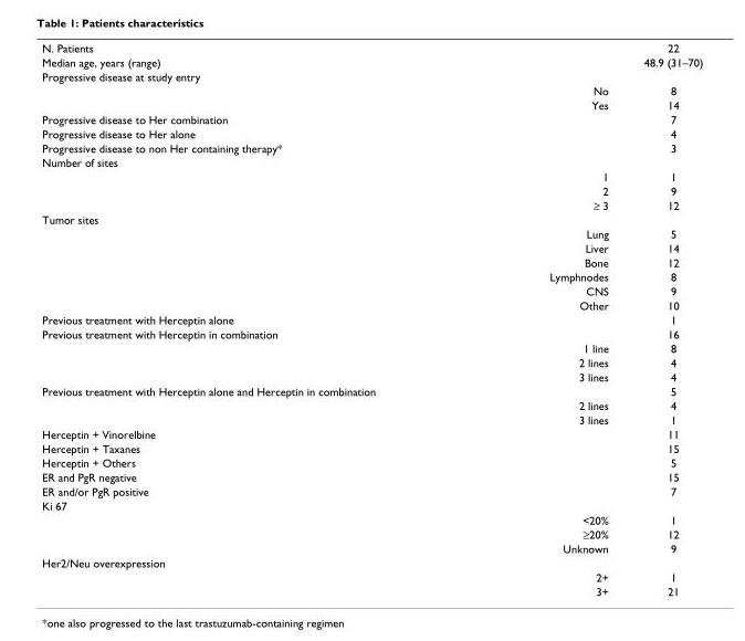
<table><tbody><tr><td>N. Patients</td><td>22</td></tr><tr><td>Median age, years (range)</td><td>48.9 (31–70)</td></tr><tr><td colspan="2">Progressive disease at study entry</td></tr><tr><td>No</td><td>8</td></tr><tr><td>Yes</td><td>14</td></tr><tr><td>Progressive disease to Her combination</td><td>7</td></tr><tr><td>Progressive disease to Her alone</td><td>4</td></tr><tr><td>Progressive disease to non Her containing therapy*</td><td>3</td></tr><tr><td colspan="2">Number of sites</td></tr><tr><td>1</td><td>1</td></tr><tr><td>2</td><td>9</td></tr><tr><td>≥ 3</td><td>12</td></tr><tr><td colspan="2">Tumor sites</td></tr><tr><td>Lung</td><td>5</td></tr><tr><td>Liver</td><td>14</td></tr><tr><td>Bone</td><td>12</td></tr><tr><td>Lymphnodes</td><td>8</td></tr><tr><td>CNS</td><td>9</td></tr><tr><td>Other</td><td>10</td></tr><tr><td>Previous treatment with Herceptin alone</td><td>1</td></tr><tr><td>Previous treatment with Herceptin in combination</td><td>16</td></tr><tr><td>1 line</td><td>8</td></tr><tr><td>2 lines</td><td>4</td></tr><tr><td>3 lines</td><td>4</td></tr><tr><td>Previous treatment with Herceptin alone and Herceptin in combination</td><td>5</td></tr><tr><td>2 lines</td><td>4</td></tr><tr><td>3 lines</td><td>1</td></tr><tr><td>Herceptin + Vinorelbine</td><td>11</td></tr><tr><td>Herceptin + Taxanes</td><td>15</td></tr><tr><td>Herceptin + Others</td><td>5</td></tr><tr><td>ER and PgR negative</td><td>15</td></tr><tr><td>ER and/or PgR positive</td><td>7</td></tr><tr><td colspan="2">Ki 67</td></tr><tr><td>&lt;20%</td><td>1</td></tr><tr><td>≥20%</td><td>12</td></tr><tr><td>Unknown</td><td>9</td></tr><tr><td colspan="2">Her2/Neu overexpression</td></tr><tr><td>2+</td><td>1</td></tr><tr><td>3+</td><td>21</td></tr></tbody></table>